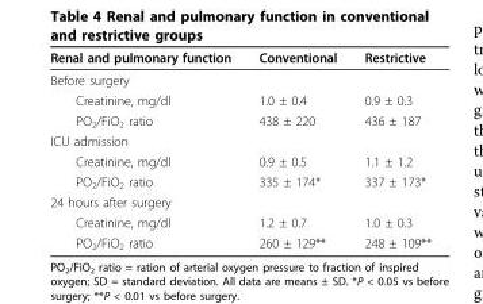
<table><thead><tr><td>Renal and pulmonary function</td><td>Conventional</td><td>Restrictive</td></tr></thead><tbody><tr><td colspan="3">Before surgery</td></tr><tr><td>Creatinine, mg/dl</td><td>1.0 ± 0.4</td><td>0.9 ± 0.3</td></tr><tr><td>PO<sub>2</sub>/FiO<sub>2</sub> ratio</td><td>438 ± 220</td><td>436 ± 187</td></tr><tr><td colspan="3">ICU admission</td></tr><tr><td>Creatinine, mg/dl</td><td>0.9 ± 0.5</td><td>1.1 ± 1.2</td></tr><tr><td>PO<sub>2</sub>/FiO<sub>2</sub> ratio</td><td>335 ± 174*</td><td>337 ± 173*</td></tr><tr><td colspan="3">24 hours after surgery</td></tr><tr><td>Creatinine, mg/dl</td><td>1.2 ± 0.7</td><td>1.0 ± 0.3</td></tr><tr><td>PO<sub>2</sub>/FiO<sub>2</sub> ratio</td><td>260 ± 129**</td><td>248 ± 109**</td></tr></tbody></table>